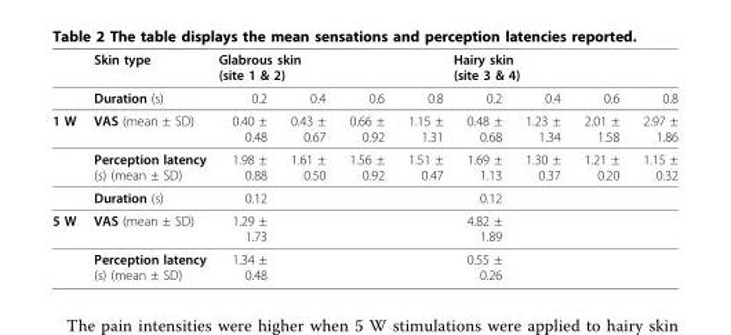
<table><thead><tr><td rowspan="2"></td><td rowspan="2">Skin type Duration (s)</td><td colspan="2">Glabrous skin (site 1 &amp; 2)</td><td rowspan="2">0.6</td><td rowspan="2">0.8</td><td colspan="2">Hairy skin (site 3 &amp; 4)</td><td rowspan="2">0.6</td><td rowspan="2">0.8</td></tr><tr><td>0.2</td><td>0.4</td><td>0.2</td><td>0.4</td></tr></thead><tbody><tr><td rowspan="3">1 W</td><td>VAS (mean ± SD)</td><td>0.40 ± 0.48</td><td>0.43 ± 0.67</td><td>0.66 ± 0.92</td><td>1.15 ± 1.31</td><td>0.48 ± 0.68</td><td>1.23 ± 1.34</td><td>2.01 ± 1.58</td><td>2.97 ± 1.86</td></tr><tr><td>Perception latency (s) (mean ± SD)</td><td>1.98 ± 0.88</td><td>1.61 ± 0.50</td><td>1.56 ± 0.92</td><td>1.51 ± 0.47</td><td>1.69 ± 1.13</td><td>1.30 ± 0.37</td><td>1.21 ± 0.20</td><td>1.15 ± 0.32</td></tr><tr><td>Duration (s)</td><td>0.12</td><td></td><td></td><td></td><td>0.12</td><td></td><td></td><td></td></tr><tr><td rowspan="2">5 W</td><td>VAS (mean ± SD)</td><td>1.29 ± 1.73</td><td></td><td></td><td></td><td>4.82 ± 1.89</td><td></td><td></td><td></td></tr><tr><td>Perception latency (s) (mean ± SD)</td><td>1.34 ± 0.48</td><td></td><td></td><td></td><td>0.55 ± 0.26</td><td></td><td></td><td></td></tr></tbody></table>